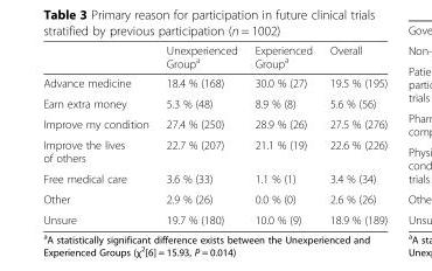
<table><thead><tr><td></td><td>Unexperienced Group<sup>a</sup></td><td>Experienced Group<sup>a</sup></td><td>Overall</td></tr></thead><tbody><tr><td>Advance medicine</td><td>18.4 % (168)</td><td>30.0 % (27)</td><td>19.5 % (195)</td></tr><tr><td>Earn extra money</td><td>5.3 % (48)</td><td>8.9 % (8)</td><td>5.6 % (56)</td></tr><tr><td>Improve my condition</td><td>27.4 % (250)</td><td>28.9 % (26)</td><td>27.5 % (276)</td></tr><tr><td>Improve the lives of others</td><td>22.7 % (207)</td><td>21.1 % (19)</td><td>22.6 % (226)</td></tr><tr><td>Free medical care</td><td>3.6 % (33)</td><td>1.1 % (1)</td><td>3.4 % (34)</td></tr><tr><td>Other</td><td>2.9 % (26)</td><td>0.0 % (0)</td><td>2.6 % (26)</td></tr><tr><td>Unsure</td><td>19.7 % (180)</td><td>10.0 % (9)</td><td>18.9 % (189)</td></tr></tbody></table>